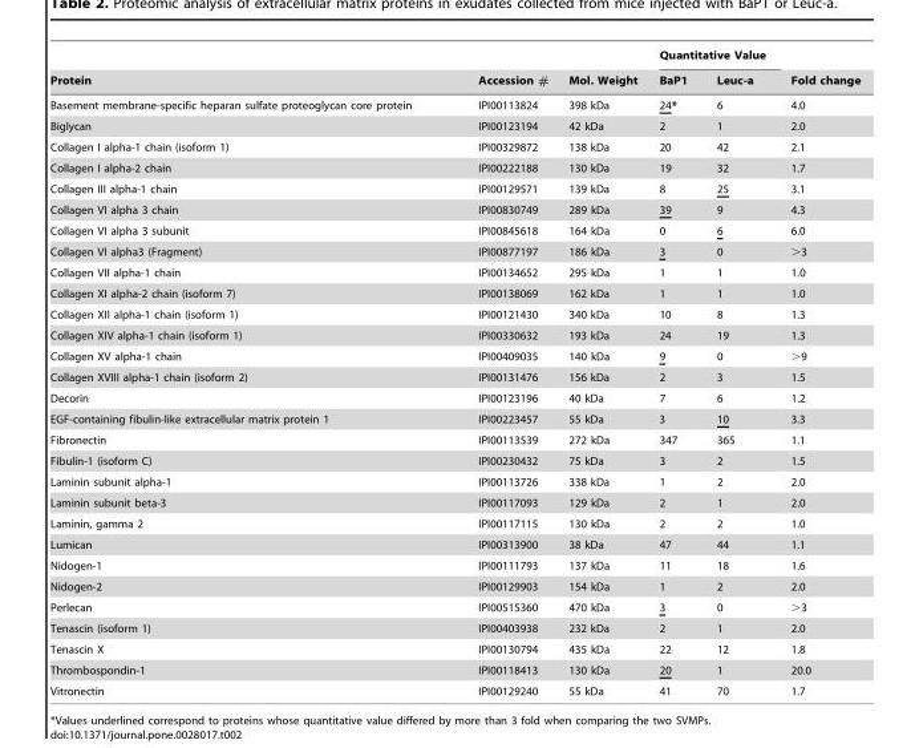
<table><thead><tr><td rowspan="2">Protein</td><td rowspan="2">Accession #</td><td rowspan="2">Mol. Weight</td><td colspan="2">Quantitative Value</td><td rowspan="2">Fold change</td></tr><tr><td>BaP1</td><td>Leuc-a</td></tr></thead><tbody><tr><td>Basement membrane-specific heparan sulfate proteoglycan core protein</td><td>IPI00113824</td><td>398 kDa</td><td>24*</td><td>6</td><td>4.0</td></tr><tr><td>Biglycan</td><td>IPI00123194</td><td>42 kDa</td><td>2</td><td>1</td><td>2.0</td></tr><tr><td>Collagen I alpha-1 chain (isoform 1)</td><td>IPI00329872</td><td>138 kDa</td><td>20</td><td>42</td><td>2.1</td></tr><tr><td>Collagen I alpha-2 chain</td><td>IPI00222188</td><td>130 kDa</td><td>19</td><td>32</td><td>1.7</td></tr><tr><td>Collagen III alpha-1 chain</td><td>IPI00129571</td><td>139 kDa</td><td>8</td><td>25</td><td>3.1</td></tr><tr><td>Collagen VI alpha 3 chain</td><td>IPI00830749</td><td>289 kDa</td><td>39</td><td>9</td><td>4.3</td></tr><tr><td>Collagen VI alpha 3 subunit</td><td>IPI00845618</td><td>164 kDa</td><td>0</td><td>6</td><td>6.0</td></tr><tr><td>Collagen VI alpha3 (Fragment)</td><td>IPI00877197</td><td>186 kDa</td><td>3</td><td>0</td><td>&gt;3</td></tr><tr><td>Collagen VII alpha-1 chain</td><td>IPI00134652</td><td>295 kDa</td><td>1</td><td>1</td><td>1.0</td></tr><tr><td>Collagen XI alpha-2 chain (isoform 7)</td><td>IPI00138069</td><td>162 kDa</td><td>1</td><td>1</td><td>1.0</td></tr><tr><td>Collagen XII alpha-1 chain (isoform 1)</td><td>IPI00121430</td><td>340 kDa</td><td>10</td><td>8</td><td>1.3</td></tr><tr><td>Collagen XIV alpha-1 chain (isoform 1)</td><td>IPI00330632</td><td>193 kDa</td><td>24</td><td>19</td><td>1.3</td></tr><tr><td>Collagen XV alpha-1 chain</td><td>IPI00409035</td><td>140 kDa</td><td>9</td><td>0</td><td>&gt;9</td></tr><tr><td>Collagen XVIII alpha-1 chain (isoform 2)</td><td>IPI00131476</td><td>156 kDa</td><td>2</td><td>3</td><td>1.5</td></tr><tr><td>Decorin</td><td>IPI00123196</td><td>40 kDa</td><td>7</td><td>6</td><td>1.2</td></tr><tr><td>EGF-containing fibulin-like extracellular matrix protein 1</td><td>IPI00223457</td><td>55 kDa</td><td>3</td><td>10</td><td>3.3</td></tr><tr><td>Fibronectin</td><td>IPI00113539</td><td>272 kDa</td><td>347</td><td>365</td><td>1.1</td></tr><tr><td>Fibulin-1 (isoform C)</td><td>IPI00230432</td><td>75 kDa</td><td>3</td><td>2</td><td>1.5</td></tr><tr><td>Laminin subunit alpha-1</td><td>IPI00113726</td><td>338 kDa</td><td>1</td><td>2</td><td>2.0</td></tr><tr><td>Laminin subunit beta-3</td><td>IPI00117093</td><td>129 kDa</td><td>2</td><td>1</td><td>2.0</td></tr><tr><td>Laminin, gamma 2</td><td>IPI00117115</td><td>130 kDa</td><td>2</td><td>2</td><td>1.0</td></tr><tr><td>Lumican</td><td>IPI00313900</td><td>38 kDa</td><td>47</td><td>44</td><td>1.1</td></tr><tr><td>Nidogen-1</td><td>IPI00111793</td><td>137 kDa</td><td>11</td><td>18</td><td>1.6</td></tr><tr><td>Nidogen-2</td><td>IPI00129903</td><td>154 kDa</td><td>1</td><td>2</td><td>2.0</td></tr><tr><td>Perlecan</td><td>IPI00515360</td><td>470 kDa</td><td>3</td><td>0</td><td>&gt;3</td></tr><tr><td>Tenascin (isoform 1)</td><td>IPI00403938</td><td>232 kDa</td><td>2</td><td>1</td><td>2.0</td></tr><tr><td>Tenascin X</td><td>IPI00130794</td><td>435 kDa</td><td>22</td><td>12</td><td>1.8</td></tr><tr><td>Thrombospondin-1</td><td>IPI00118413</td><td>130 kDa</td><td>20</td><td>1</td><td>20.0</td></tr><tr><td>Vitronectin</td><td>IPI00129240</td><td>55 kDa</td><td>41</td><td>70</td><td>1.7</td></tr></tbody></table>